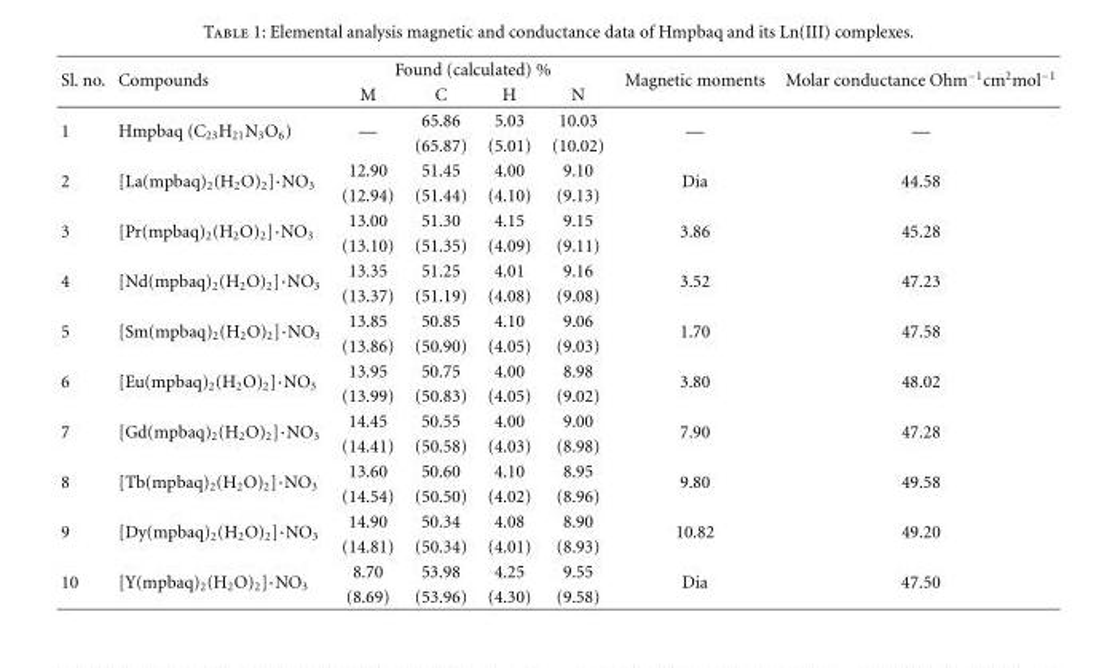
<table><thead><tr><td rowspan="2">Sl. no.</td><td rowspan="2">Compounds</td><td colspan="4">Found (calculated) %</td><td rowspan="2">Magnetic moments</td><td rowspan="2">Molar conductance Ohm<sup>−1</sup>cm<sup>2</sup>mol<sup>−1</sup></td></tr><tr><td>M</td><td>C</td><td>H</td><td>N</td></tr></thead><tbody><tr><td rowspan="2">1</td><td rowspan="2">Hmpbaq (C<sub>23</sub>H<sub>21</sub>N<sub>3</sub>O<sub>6</sub>)</td><td rowspan="2">—</td><td>65.86</td><td>5.03</td><td>10.03</td><td rowspan="2">—</td><td rowspan="2">—</td></tr><tr><td>(65.87)</td><td>(5.01)</td><td>(10.02)</td></tr><tr><td rowspan="2">2</td><td rowspan="2">[La(mpbaq)2(H2O)2]·NO3</td><td>12.90</td><td>51.45</td><td>4.00</td><td>9.10</td><td rowspan="2">Dia</td><td rowspan="2">44.58</td></tr><tr><td>(12.94)</td><td>(51.44)</td><td>(4.10)</td><td>(9.13)</td></tr><tr><td rowspan="2">3</td><td rowspan="2">[Pr(mpbaq)2(H2O)2]·NO3</td><td>13.00</td><td>51.30</td><td>4.15</td><td>9.15</td><td rowspan="2">3.86</td><td rowspan="2">45.28</td></tr><tr><td>(13.10)</td><td>(51.35)</td><td>(4.09)</td><td>(9.11)</td></tr><tr><td rowspan="2">4</td><td rowspan="2">[Nd(mpbaq)2(H2O)2]·NO3</td><td>13.35</td><td>51.25</td><td>4.01</td><td>9.16</td><td rowspan="2">3.52</td><td rowspan="2">47.23</td></tr><tr><td>(13.37)</td><td>(51.19)</td><td>(4.08)</td><td>(9.08)</td></tr><tr><td rowspan="2">5</td><td rowspan="2">[Sm(mpbaq)2(H2O)2]·NO3</td><td>13.85</td><td>50.85</td><td>4.10</td><td>9.06</td><td rowspan="2">1.70</td><td rowspan="2">47.58</td></tr><tr><td>(13.86)</td><td>(50.90)</td><td>(4.05)</td><td>(9.03)</td></tr><tr><td rowspan="2">6</td><td rowspan="2">[Eu(mpbaq)2(H2O)2]·NO3</td><td>13.95</td><td>50.75</td><td>4.00</td><td>8.98</td><td rowspan="2">3.80</td><td rowspan="2">48.02</td></tr><tr><td>(13.99)</td><td>(50.83)</td><td>(4.05)</td><td>(9.02)</td></tr><tr><td rowspan="2">7</td><td rowspan="2">[Gd(mpbaq)2(H2O)2]·NO3</td><td>14.45</td><td>50.55</td><td>4.00</td><td>9.00</td><td rowspan="2">7.90</td><td rowspan="2">47.28</td></tr><tr><td>(14.41)</td><td>(50.58)</td><td>(4.03)</td><td>(8.98)</td></tr><tr><td rowspan="2">8</td><td rowspan="2">[Tb(mpbaq)2(H2O)2]·NO3</td><td>13.60</td><td>50.60</td><td>4.10</td><td>8.95</td><td rowspan="2">9.80</td><td rowspan="2">49.58</td></tr><tr><td>(14.54)</td><td>(50.50)</td><td>(4.02)</td><td>(8.96)</td></tr><tr><td rowspan="2">9</td><td rowspan="2">[Dy(mpbaq)2(H2O)2]·NO3</td><td>14.90</td><td>50.34</td><td>4.08</td><td>8.90</td><td rowspan="2">10.82</td><td rowspan="2">49.20</td></tr><tr><td>(14.81)</td><td>(50.34)</td><td>(4.01)</td><td>(8.93)</td></tr><tr><td rowspan="2">10</td><td rowspan="2">[Y(mpbaq)2(H2O)2]·NO3</td><td>8.70</td><td>53.98</td><td>4.25</td><td>9.55</td><td rowspan="2">Dia</td><td rowspan="2">47.50</td></tr><tr><td>(8.69)</td><td>(53.96)</td><td>(4.30)</td><td>(9.58)</td></tr></tbody></table>